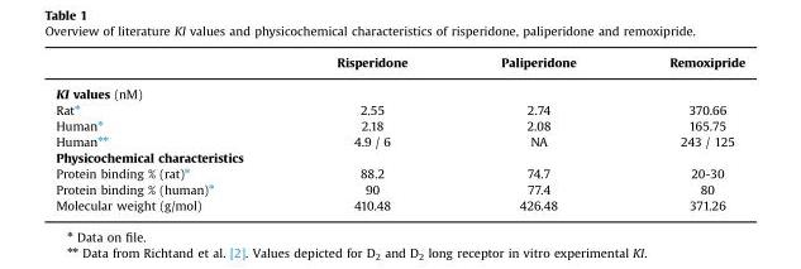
<table><thead><tr><td></td><td>Risperidone</td><td>Paliperidone</td><td>Remoxipride</td></tr></thead><tbody><tr><td colspan="4">KI values (nM)</td></tr><tr><td>Rat⁎</td><td>2.55</td><td>2.74</td><td>370.66</td></tr><tr><td>Human⁎</td><td>2.18</td><td>2.08</td><td>165.75</td></tr><tr><td>Human⁎⁎</td><td>4.9 / 6</td><td>NA</td><td>243 / 125</td></tr><tr><td colspan="4">Physicochemical characteristics</td></tr><tr><td>Protein binding % (rat)⁎</td><td>88.2</td><td>74.7</td><td>20-30</td></tr><tr><td>Protein binding % (human)⁎</td><td>90</td><td>77.4</td><td>80</td></tr><tr><td>Molecular weight (g/mol)</td><td>410.48</td><td>426.48</td><td>371.26</td></tr></tbody></table>